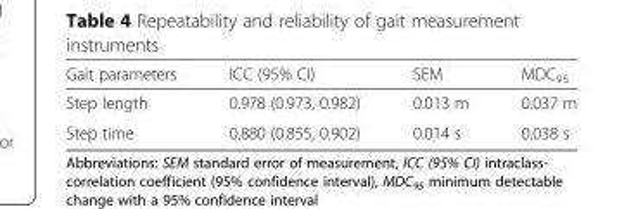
<table><thead><tr><td>Gait parameters</td><td>ICC (95% CI)</td><td>SEM</td><td>MDC<sub>95</sub></td></tr></thead><tbody><tr><td>Step length</td><td>0.978 (0.973, 0.982)</td><td>0.013 m</td><td>0.037 m</td></tr><tr><td>Step time</td><td>0.880 (0.855, 0.902)</td><td>0.014 s</td><td>0.038 s</td></tr></tbody></table>